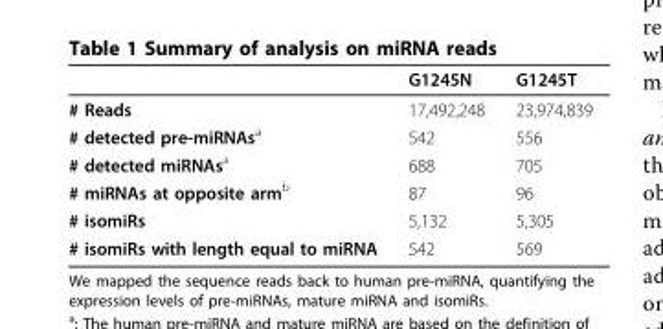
<table><thead><tr><td></td><td>G1245N</td><td>G1245T</td></tr></thead><tbody><tr><td># Reads</td><td>17,492,248</td><td>23,974,839</td></tr><tr><td># detected pre-miRNAs<sup>a</sup></td><td>542</td><td>556</td></tr><tr><td># detected miRNAs<sup>a</sup></td><td>688</td><td>705</td></tr><tr><td># miRNAs at opposite arm<sup>b</sup></td><td>87</td><td>96</td></tr><tr><td># isomiRs</td><td>5,132</td><td>5,305</td></tr><tr><td># isomiRs with length equal to miRNA</td><td>542</td><td>569</td></tr></tbody></table>